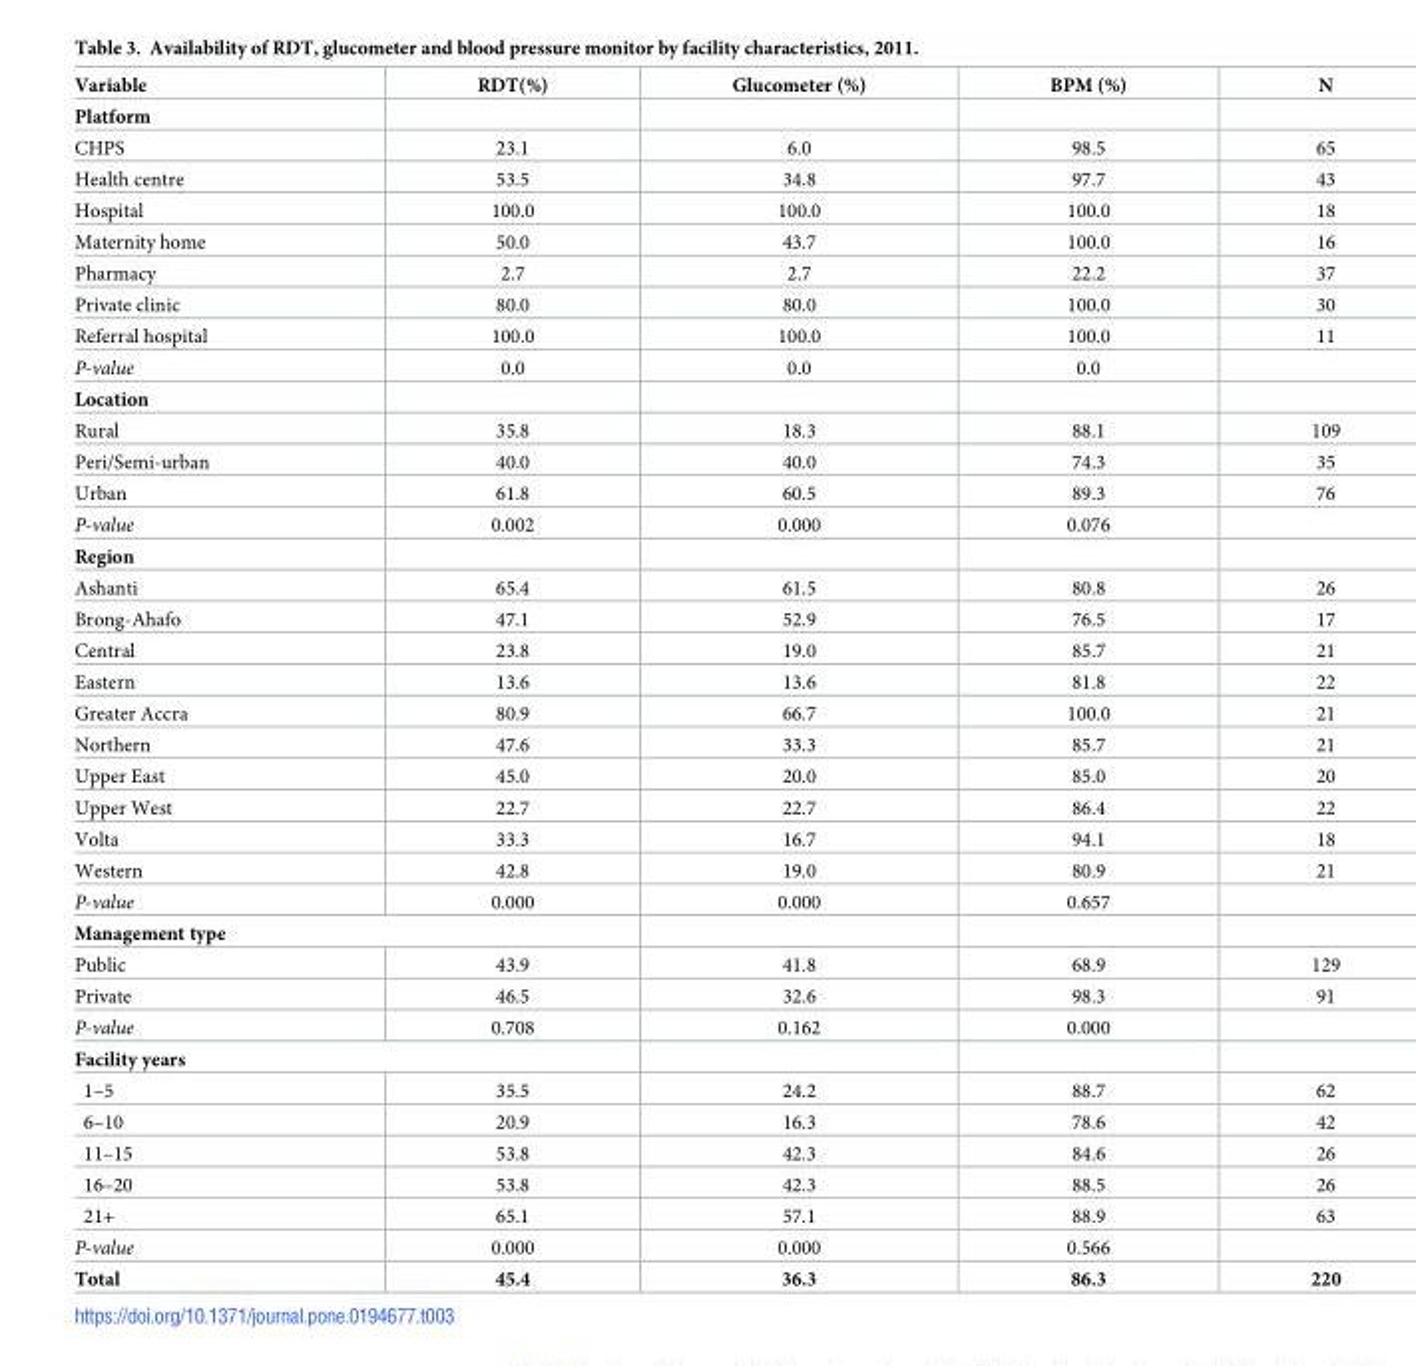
<table><thead><tr><td>Variable</td><td>RDT(%)</td><td>Glucometer (%)</td><td>BPM (%)</td><td>N</td></tr></thead><tbody><tr><td colspan="5">Platform</td></tr><tr><td>CHPS</td><td>23.1</td><td>6.0</td><td>98.5</td><td>65</td></tr><tr><td>Health centre</td><td>53.5</td><td>34.8</td><td>97.7</td><td>43</td></tr><tr><td>Hospital</td><td>100.0</td><td>100.0</td><td>100.0</td><td>18</td></tr><tr><td>Maternity home</td><td>50.0</td><td>43.7</td><td>100.0</td><td>16</td></tr><tr><td>Pharmacy</td><td>2.7</td><td>2.7</td><td>22.2</td><td>37</td></tr><tr><td>Private clinic</td><td>80.0</td><td>80.0</td><td>100.0</td><td>30</td></tr><tr><td>Referral hospital</td><td>100.0</td><td>100.0</td><td>100.0</td><td>11</td></tr><tr><td>P-value</td><td>0.0</td><td>0.0</td><td>0.0</td><td></td></tr><tr><td colspan="5">Location</td></tr><tr><td>Rural</td><td>35.8</td><td>18.3</td><td>88.1</td><td>109</td></tr><tr><td>Peri/Semi-urban</td><td>40.0</td><td>40.0</td><td>74.3</td><td>35</td></tr><tr><td>Urban</td><td>61.8</td><td>60.5</td><td>89.3</td><td>76</td></tr><tr><td>P-value</td><td>0.002</td><td>0.000</td><td>0.076</td><td></td></tr><tr><td colspan="5">Region</td></tr><tr><td>Ashanti</td><td>65.4</td><td>61.5</td><td>80.8</td><td>26</td></tr><tr><td>Brong-Ahafo</td><td>47.1</td><td>52.9</td><td>76.5</td><td>17</td></tr><tr><td>Central</td><td>23.8</td><td>19.0</td><td>85.7</td><td>21</td></tr><tr><td>Eastern</td><td>13.6</td><td>13.6</td><td>81.8</td><td>22</td></tr><tr><td>Greater Accra</td><td>80.9</td><td>66.7</td><td>100.0</td><td>21</td></tr><tr><td>Northern</td><td>47.6</td><td>33.3</td><td>85.7</td><td>21</td></tr><tr><td>Upper East</td><td>45.0</td><td>20.0</td><td>85.0</td><td>20</td></tr><tr><td>Upper West</td><td>22.7</td><td>22.7</td><td>86.4</td><td>22</td></tr><tr><td>Volta</td><td>33.3</td><td>16.7</td><td>94.1</td><td>18</td></tr><tr><td>Western</td><td>42.8</td><td>19.0</td><td>80.9</td><td>21</td></tr><tr><td>P-value</td><td>0.000</td><td>0.000</td><td>0.657</td><td></td></tr><tr><td colspan="5">Management type</td></tr><tr><td>Public</td><td>43.9</td><td>41.8</td><td>68.9</td><td>129</td></tr><tr><td>Private</td><td>46.5</td><td>32.6</td><td>98.3</td><td>91</td></tr><tr><td>P-value</td><td>0.708</td><td>0.162</td><td>0.000</td><td></td></tr><tr><td colspan="5">Facility years</td></tr><tr><td>1–5</td><td>35.5</td><td>24.2</td><td>88.7</td><td>62</td></tr><tr><td>6–10</td><td>20.9</td><td>16.3</td><td>78.6</td><td>42</td></tr><tr><td>11–15</td><td>53.8</td><td>42.3</td><td>84.6</td><td>26</td></tr><tr><td>16–20</td><td>53.8</td><td>42.3</td><td>88.5</td><td>26</td></tr><tr><td>21+</td><td>65.1</td><td>57.1</td><td>88.9</td><td>63</td></tr><tr><td>P-value</td><td>0.000</td><td>0.000</td><td>0.566</td><td></td></tr><tr><td>Total</td><td>45.4</td><td>36.3</td><td>86.3</td><td>220</td></tr></tbody></table>